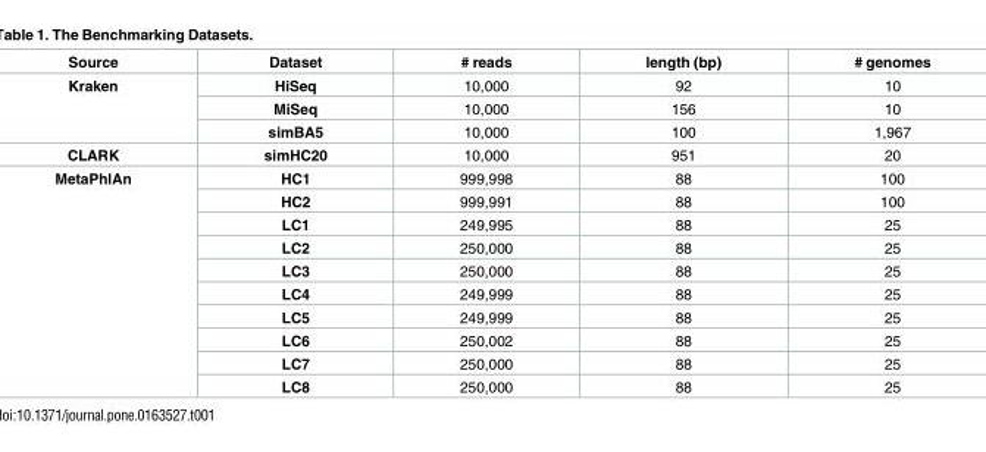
<table><thead><tr><td>Source</td><td>Dataset</td><td># reads</td><td>length (bp)</td><td># genomes</td></tr></thead><tbody><tr><td rowspan="3">Kraken</td><td>HiSeq</td><td>10,000</td><td>92</td><td>10</td></tr><tr><td>MiSeq</td><td>10,000</td><td>156</td><td>10</td></tr><tr><td>simBA5</td><td>10,000</td><td>100</td><td>1,967</td></tr><tr><td>CLARK</td><td>simHC20</td><td>10,000</td><td>951</td><td>20</td></tr><tr><td rowspan="10">MetaPhlAn</td><td>HC1</td><td>999,998</td><td>88</td><td>100</td></tr><tr><td>HC2</td><td>999,991</td><td>88</td><td>100</td></tr><tr><td>LC1</td><td>249,995</td><td>88</td><td>25</td></tr><tr><td>LC2</td><td>250,000</td><td>88</td><td>25</td></tr><tr><td>LC3</td><td>250,000</td><td>88</td><td>25</td></tr><tr><td>LC4</td><td>249,999</td><td>88</td><td>25</td></tr><tr><td>LC5</td><td>249,999</td><td>88</td><td>25</td></tr><tr><td>LC6</td><td>250,002</td><td>88</td><td>25</td></tr><tr><td>LC7</td><td>250,000</td><td>88</td><td>25</td></tr><tr><td>LC8</td><td>250,000</td><td>88</td><td>25</td></tr></tbody></table>